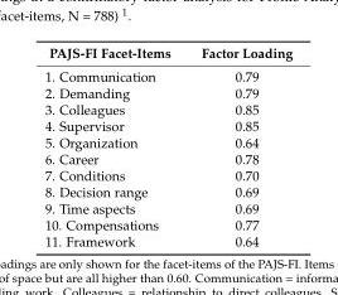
<table><thead><tr><td>PAJS-FI Facet-Items</td><td>Factor Loading</td></tr></thead><tbody><tr><td>1. Communication</td><td>0.79</td></tr><tr><td>2. Demanding</td><td>0.79</td></tr><tr><td>3. Colleagues</td><td>0.85</td></tr><tr><td>4. Supervisor</td><td>0.85</td></tr><tr><td>5. Organization</td><td>0.64</td></tr><tr><td>6. Career</td><td>0.78</td></tr><tr><td>7. Conditions</td><td>0.70</td></tr><tr><td>8. Decision range</td><td>0.69</td></tr><tr><td>9. Time aspects</td><td>0.69</td></tr><tr><td>10. Compensations</td><td>0.77</td></tr><tr><td>11. Framework</td><td>0.64</td></tr></tbody></table>